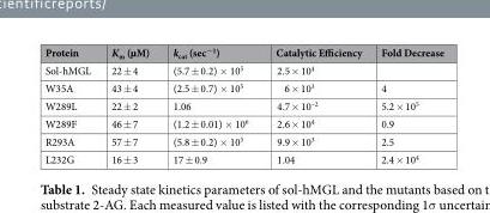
<table><thead><tr><td>Protein</td><td>K<sub>m</sub> (µM)</td><td>k<sub>cat</sub> (sec<sup>−1</sup>)</td><td>Catalytic Efficiency</td><td>Fold Decrease</td></tr></thead><tbody><tr><td>Sol-hMGL</td><td>22 ± 4</td><td>(5.7 ± 0.2) × 10<sup>5</sup></td><td>2.5 × 10<sup>4</sup></td><td></td></tr><tr><td>W35A</td><td>43 ± 4</td><td>(2.5 ± 0.7) × 10<sup>5</sup></td><td>6 × 10<sup>3</sup></td><td>4</td></tr><tr><td>W289L</td><td>22 ± 2</td><td>1.06</td><td>4.7 × 10<sup>–2</sup></td><td>5.2 × 10<sup>5</sup></td></tr><tr><td>W289F</td><td>46 ± 7</td><td>(1.2 ± 0.01) × 10<sup>6</sup></td><td>2.6 × 10<sup>4</sup></td><td>0.9</td></tr><tr><td>R293A</td><td>57 ± 7</td><td>(5.8 ± 0.2) × 10<sup>5</sup></td><td>9.9 × 10<sup>3</sup></td><td>2.5</td></tr><tr><td>L232G</td><td>16 ± 3</td><td>17 ± 0.9</td><td>1.04</td><td>2.4 × 10<sup>4</sup></td></tr></tbody></table>